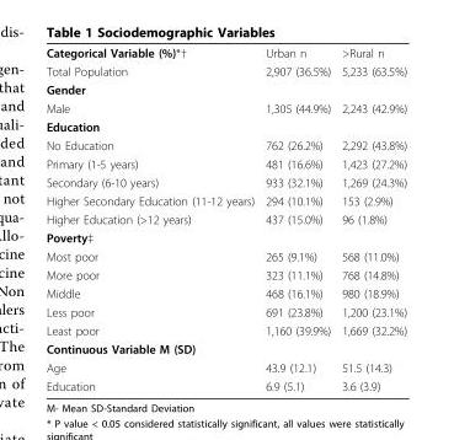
<table><tbody><tr><td>Categorical Variable (%)*†</td><td>Urban n</td><td>&gt;Rural n</td></tr><tr><td>Total Population</td><td>2,907 (36.5%)</td><td>5,233 (63.5%)</td></tr><tr><td colspan="3">Gender</td></tr><tr><td>Male</td><td>1,305 (44.9%)</td><td>2,243 (42.9%)</td></tr><tr><td colspan="3">Education</td></tr><tr><td>No Education</td><td>762 (26.2%)</td><td>2,292 (43.8%)</td></tr><tr><td>Primary (1-5 years)</td><td>481 (16.6%)</td><td>1,423 (27.2%)</td></tr><tr><td>Secondary (6-10 years)</td><td>933 (32.1%)</td><td>1,269 (24.3%)</td></tr><tr><td>Higher Secondary Education (11-12 years)</td><td>294 (10.1%)</td><td>153 (2.9%)</td></tr><tr><td>Higher Education (&gt;12 years)</td><td>437 (15.0%)</td><td>96 (1.8%)</td></tr><tr><td colspan="3">Poverty‡</td></tr><tr><td>Most poor</td><td>265 (9.1%)</td><td>568 (11.0%)</td></tr><tr><td>More poor</td><td>323 (11.1%)</td><td>768 (14.8%)</td></tr><tr><td>Middle</td><td>468 (16.1%)</td><td>980 (18.9%)</td></tr><tr><td>Less poor</td><td>691 (23.8%)</td><td>1,200 (23.1%)</td></tr><tr><td>Least poor</td><td>1,160 (39.9%)</td><td>1,669 (32.2%)</td></tr><tr><td colspan="3">Continuous Variable M (SD)</td></tr><tr><td>Age</td><td>43.9 (12.1)</td><td>51.5 (14.3)</td></tr><tr><td>Education</td><td>6.9 (5.1)</td><td>3.6 (3.9)</td></tr></tbody></table>